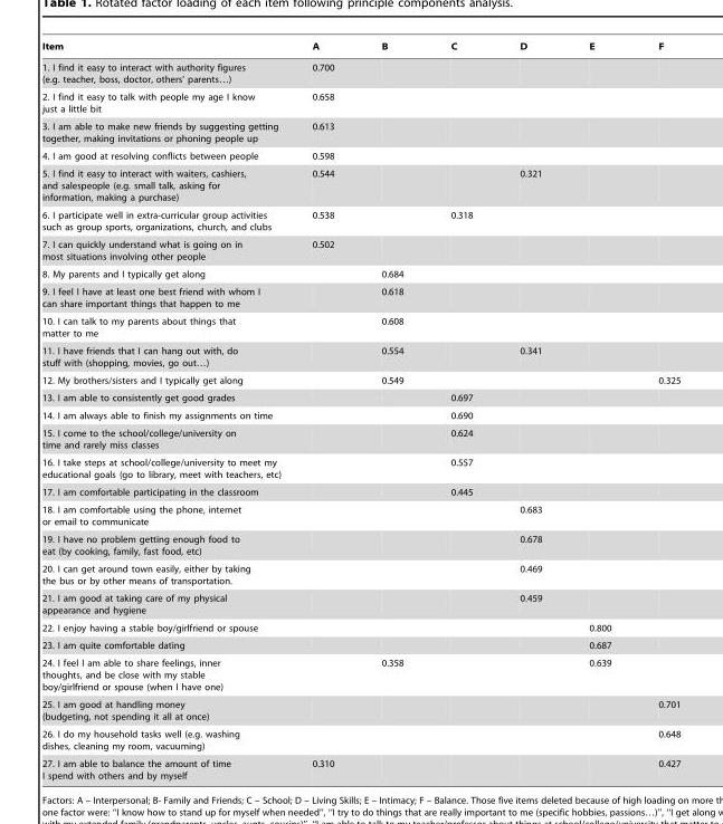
<table><thead><tr><td>Item</td><td>A</td><td>B</td><td>C</td><td>D</td><td>E</td><td>F</td></tr></thead><tbody><tr><td>1. I find it easy to interact with authority figures (e.g. teacher, boss, doctor, others’ parents…)</td><td>0.700</td><td></td><td></td><td></td><td></td><td></td></tr><tr><td>2. I find it easy to talk with people my age I know just a little bit</td><td>0.658</td><td></td><td></td><td></td><td></td><td></td></tr><tr><td>3. I am able to make new friends by suggesting getting together, making invitations or phoning people up</td><td>0.613</td><td></td><td></td><td></td><td></td><td></td></tr><tr><td>4. I am good at resolving conflicts between people</td><td>0.598</td><td></td><td></td><td></td><td></td><td></td></tr><tr><td>5. I find it easy to interact with waiters, cashiers, and salespeople (e.g. small talk, asking for information, making a purchase)</td><td>0.544</td><td></td><td></td><td>0.321</td><td></td><td></td></tr><tr><td>6. I participate well in extra-curricular group activities such as group sports, organizations, church, and clubs</td><td>0.538</td><td></td><td>0.318</td><td></td><td></td><td></td></tr><tr><td>7. I can quickly understand what is going on in most situations involving other people</td><td>0.502</td><td></td><td></td><td></td><td></td><td></td></tr><tr><td>8. My parents and I typically get along</td><td></td><td>0.684</td><td></td><td></td><td></td><td></td></tr><tr><td>9. I feel I have at least one best friend with whom I can share important things that happen to me</td><td></td><td>0.618</td><td></td><td></td><td></td><td></td></tr><tr><td>10. I can talk to my parents about things that matter to me</td><td></td><td>0.608</td><td></td><td></td><td></td><td></td></tr><tr><td>11. I have friends that I can hang out with, do stuff with (shopping, movies, go out…)</td><td></td><td>0.554</td><td></td><td>0.341</td><td></td><td></td></tr><tr><td>12. My brothers/sisters and I typically get along</td><td></td><td>0.549</td><td></td><td></td><td></td><td>0.325</td></tr><tr><td>13. I am able to consistently get good grades</td><td></td><td></td><td>0.697</td><td></td><td></td><td></td></tr><tr><td>14. I am always able to finish my assignments on time</td><td></td><td></td><td>0.690</td><td></td><td></td><td></td></tr><tr><td>15. I come to the school/college/university on time and rarely miss classes</td><td></td><td></td><td>0.624</td><td></td><td></td><td></td></tr><tr><td>16. I take steps at school/college/university to meet my educational goals (go to library, meet with teachers, etc)</td><td></td><td></td><td>0.557</td><td></td><td></td><td></td></tr><tr><td>17. I am comfortable participating in the classroom</td><td></td><td></td><td>0.445</td><td></td><td></td><td></td></tr><tr><td>18. I am comfortable using the phone, internet or email to communicate</td><td></td><td></td><td></td><td>0.683</td><td></td><td></td></tr><tr><td>19. I have no problem getting enough food to eat (by cooking, family, fast food, etc)</td><td></td><td></td><td></td><td>0.678</td><td></td><td></td></tr><tr><td>20. I can get around town easily, either by taking the bus or by other means of transportation.</td><td></td><td></td><td></td><td>0.469</td><td></td><td></td></tr><tr><td>21. I am good at taking care of my physical appearance and hygiene</td><td></td><td></td><td></td><td>0.459</td><td></td><td></td></tr><tr><td>22. I enjoy having a stable boy/girlfriend or spouse</td><td></td><td></td><td></td><td></td><td>0.800</td><td></td></tr><tr><td>23. I am quite comfortable dating</td><td></td><td></td><td></td><td></td><td>0.687</td><td></td></tr><tr><td>24. I feel I am able to share feelings, inner thoughts, and be close with my stable boy/girlfriend or spouse (when I have one)</td><td></td><td>0.358</td><td></td><td></td><td>0.639</td><td></td></tr><tr><td>25. I am good at handling money (budgeting, not spending it all at once)</td><td></td><td></td><td></td><td></td><td></td><td>0.701</td></tr><tr><td>26. I do my household tasks well (e.g. washing dishes, cleaning my room, vacuuming)</td><td></td><td></td><td></td><td></td><td></td><td>0.648</td></tr><tr><td>27. I am able to balance the amount of time I spend with others and by myself</td><td>0.310</td><td></td><td></td><td></td><td></td><td>0.427</td></tr></tbody></table>